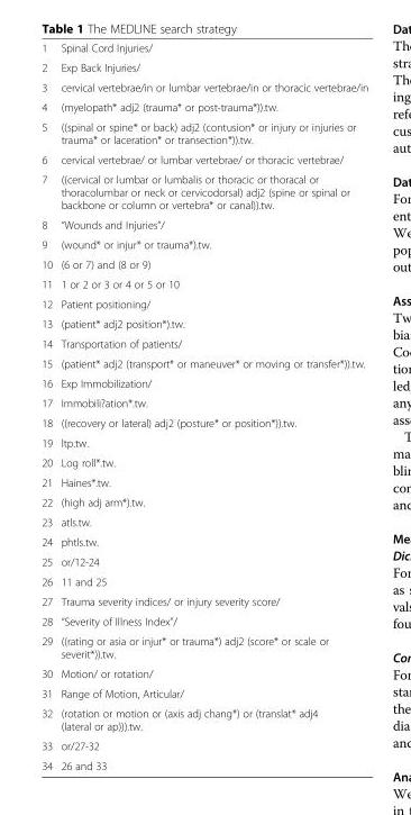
<table><tbody><tr><td>1</td><td>Spinal Cord Injuries/</td></tr><tr><td>2</td><td>Exp Back Injuries/</td></tr><tr><td>3</td><td>cervical vertebrae/in or lumbar vertebrae/in or thoracic vertebrae/in</td></tr><tr><td>4</td><td>(myelopath* adj2 (trauma* or post-trauma*)).tw.</td></tr><tr><td>5</td><td>((spinal or spine* or back) adj2 (contusion* or injury or injuries or trauma* or laceration* or transection*)).tw.</td></tr><tr><td>6</td><td>cervical vertebrae/ or lumbar vertebrae/ or thoracic vertebrae/</td></tr><tr><td>7</td><td>((cervical or lumbar or lumbalis or thoracic or thoracal or thoracolumbar or neck or cervicodorsal) adj2 (spine or spinal or backbone or column or vertebra* or canal)).tw.</td></tr><tr><td>8</td><td>“Wounds and Injuries”/</td></tr><tr><td>9</td><td>(wound* or injur* or trauma*).tw.</td></tr><tr><td>10</td><td>(6 or 7) and (8 or 9)</td></tr><tr><td>11</td><td>1 or 2 or 3 or 4 or 5 or 10</td></tr><tr><td>12</td><td>Patient positioning/</td></tr><tr><td>13</td><td>(patient* adj2 position*).tw.</td></tr><tr><td>14</td><td>Transportation of patients/</td></tr><tr><td>15</td><td>(patient* adj2 (transport* or maneuver* or moving or transfer*)).tw.</td></tr><tr><td>16</td><td>Exp Immobilization/</td></tr><tr><td>17</td><td>Immobili?ation*.tw.</td></tr><tr><td>18</td><td>((recovery or lateral) adj2 (posture* or position*)).tw.</td></tr><tr><td>19</td><td>ltp.tw.</td></tr><tr><td>20</td><td>Log roll*.tw.</td></tr><tr><td>21</td><td>Haines*.tw.</td></tr><tr><td>22</td><td>(high adj arm*).tw.</td></tr><tr><td>23</td><td>atls.tw.</td></tr><tr><td>24</td><td>phtls.tw.</td></tr><tr><td>25</td><td>or/12-24</td></tr><tr><td>26</td><td>11 and 25</td></tr><tr><td>27</td><td>Trauma severity indices/ or injury severity score/</td></tr><tr><td>28</td><td>“Severity of Illness Index”/</td></tr><tr><td>29</td><td>((rating or asia or injur* or trauma*) adj2 (score* or scale or severit*)).tw.</td></tr><tr><td>30</td><td>Motion/ or rotation/</td></tr><tr><td>31</td><td>Range of Motion, Articular/</td></tr><tr><td>32</td><td>(rotation or motion or (axis adj chang*) or (translat* adj4 (lateral or ap))).tw.</td></tr><tr><td>33</td><td>or/27-32</td></tr><tr><td>34</td><td>26 and 33</td></tr></tbody></table>